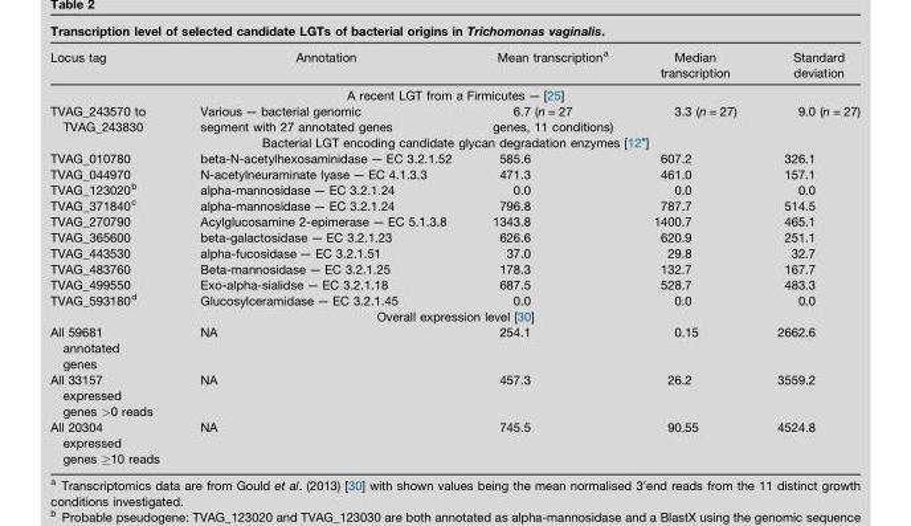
<table><thead><tr><td>Locus tag</td><td>Annotation</td><td>Mean transcription<sup>a</sup></td><td>Median transcription</td><td>Standard deviation</td></tr></thead><tbody><tr><td colspan="5">A recent LGT from a Firmicutes — [25]</td></tr><tr><td>TVAG_243570 to TVAG_243830</td><td>Various — bacterial genomic segment with 27 annotated genes</td><td>6.7 (n = 27 genes, 11 conditions)</td><td>3.3 (n = 27)</td><td>9.0 (n = 27)</td></tr><tr><td colspan="5">Bacterial LGT encoding candidate glycan degradation enzymes [12<sup>•</sup>]</td></tr><tr><td>TVAG_010780</td><td>beta-N-acetylhexosaminidase — EC 3.2.1.52</td><td>585.6</td><td>607.2</td><td>326.1</td></tr><tr><td>TVAG_044970</td><td>N-acetylneuraminate lyase — EC 4.1.3.3</td><td>471.3</td><td>461.0</td><td>157.1</td></tr><tr><td>TVAG_123020<sup>b</sup></td><td>alpha-mannosidase — EC 3.2.1.24</td><td>0.0</td><td>0.0</td><td>0.0</td></tr><tr><td>TVAG_371840<sup>c</sup></td><td>alpha-mannosidase — EC 3.2.1.24</td><td>796.8</td><td>787.7</td><td>514.5</td></tr><tr><td>TVAG_270790</td><td>Acylglucosamine 2-epimerase — EC 5.1.3.8</td><td>1343.8</td><td>1400.7</td><td>465.1</td></tr><tr><td>TVAG_365600</td><td>beta-galactosidase — EC 3.2.1.23</td><td>626.6</td><td>620.9</td><td>251.1</td></tr><tr><td>TVAG_443530</td><td>alpha-fucosidase — EC 3.2.1.51</td><td>37.0</td><td>29.8</td><td>32.7</td></tr><tr><td>TVAG_483760</td><td>Beta-mannosidase — EC 3.2.1.25</td><td>178.3</td><td>132.7</td><td>167.7</td></tr><tr><td>TVAG_499550</td><td>Exo-alpha-sialidse — EC 3.2.1.18</td><td>687.5</td><td>528.7</td><td>483.3</td></tr><tr><td>TVAG_593180<sup>d</sup></td><td>Glucosylceramidase — EC 3.2.1.45</td><td>0.0</td><td>0.0</td><td>0.0</td></tr><tr><td colspan="5">Overall expression level [30]</td></tr><tr><td>All 59681 annotated genes</td><td>NA</td><td>254.1</td><td>0.15</td><td>2662.6</td></tr><tr><td>All 33157 expressed genes &gt;0 reads</td><td>NA</td><td>457.3</td><td>26.2</td><td>3559.2</td></tr><tr><td>All 20304 expressed genes ≥10 reads</td><td>NA</td><td>745.5</td><td>90.55</td><td>4524.8</td></tr></tbody></table>